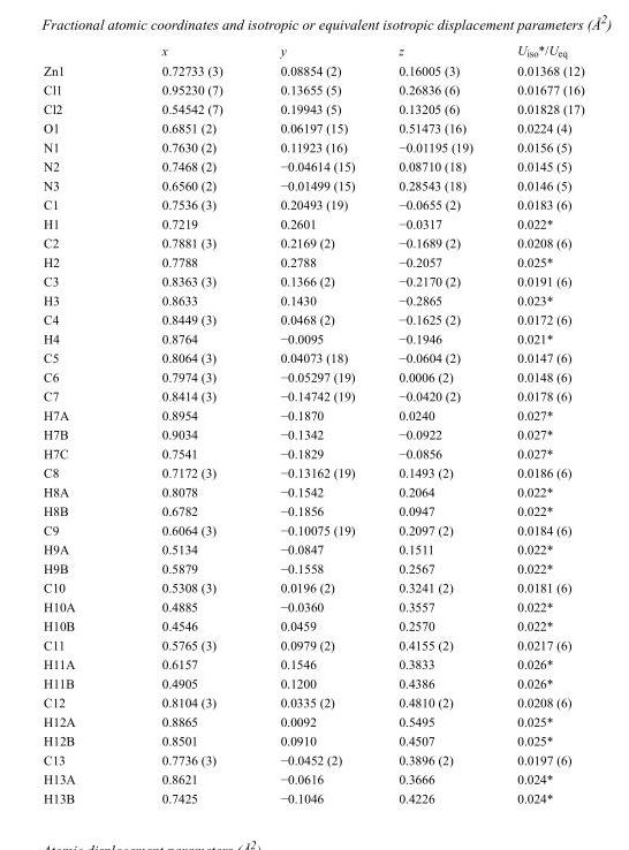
<table><thead><tr><td></td><td>x</td><td>y</td><td>z</td><td>U<sub>iso</sub>*/U<sub>eq</sub></td></tr></thead><tbody><tr><td>Zn1</td><td>0.72733 (3)</td><td>0.08854 (2)</td><td>0.16005 (3)</td><td>0.01368 (12)</td></tr><tr><td>Cl1</td><td>0.95230 (7)</td><td>0.13655 (5)</td><td>0.26836 (6)</td><td>0.01677 (16)</td></tr><tr><td>Cl2</td><td>0.54542 (7)</td><td>0.19943 (5)</td><td>0.13205 (6)</td><td>0.01828 (17)</td></tr><tr><td>O1</td><td>0.6851 (2)</td><td>0.06197 (15)</td><td>0.51473 (16)</td><td>0.0224 (4)</td></tr><tr><td>N1</td><td>0.7630 (2)</td><td>0.11923 (16)</td><td>−0.01195 (19)</td><td>0.0156 (5)</td></tr><tr><td>N2</td><td>0.7468 (2)</td><td>−0.04614 (15)</td><td>0.08710 (18)</td><td>0.0145 (5)</td></tr><tr><td>N3</td><td>0.6560 (2)</td><td>−0.01499 (15)</td><td>0.28543 (18)</td><td>0.0146 (5)</td></tr><tr><td>C1</td><td>0.7536 (3)</td><td>0.20493 (19)</td><td>−0.0655 (2)</td><td>0.0183 (6)</td></tr><tr><td>H1</td><td>0.7219</td><td>0.2601</td><td>−0.0317</td><td>0.022*</td></tr><tr><td>C2</td><td>0.7881 (3)</td><td>0.2169 (2)</td><td>−0.1689 (2)</td><td>0.0208 (6)</td></tr><tr><td>H2</td><td>0.7788</td><td>0.2788</td><td>−0.2057</td><td>0.025*</td></tr><tr><td>C3</td><td>0.8363 (3)</td><td>0.1366 (2)</td><td>−0.2170 (2)</td><td>0.0191 (6)</td></tr><tr><td>H3</td><td>0.8633</td><td>0.1430</td><td>−0.2865</td><td>0.023*</td></tr><tr><td>C4</td><td>0.8449 (3)</td><td>0.0468 (2)</td><td>−0.1625 (2)</td><td>0.0172 (6)</td></tr><tr><td>H4</td><td>0.8764</td><td>−0.0095</td><td>−0.1946</td><td>0.021*</td></tr><tr><td>C5</td><td>0.8064 (3)</td><td>0.04073 (18)</td><td>−0.0604 (2)</td><td>0.0147 (6)</td></tr><tr><td>C6</td><td>0.7974 (3)</td><td>−0.05297 (19)</td><td>0.0006 (2)</td><td>0.0148 (6)</td></tr><tr><td>C7</td><td>0.8414 (3)</td><td>−0.14742 (19)</td><td>−0.0420 (2)</td><td>0.0178 (6)</td></tr><tr><td>H7A</td><td>0.8954</td><td>−0.1870</td><td>0.0240</td><td>0.027*</td></tr><tr><td>H7B</td><td>0.9034</td><td>−0.1342</td><td>−0.0922</td><td>0.027*</td></tr><tr><td>H7C</td><td>0.7541</td><td>−0.1829</td><td>−0.0856</td><td>0.027*</td></tr><tr><td>C8</td><td>0.7172 (3)</td><td>−0.13162 (19)</td><td>0.1493 (2)</td><td>0.0186 (6)</td></tr><tr><td>H8A</td><td>0.8078</td><td>−0.1542</td><td>0.2064</td><td>0.022*</td></tr><tr><td>H8B</td><td>0.6782</td><td>−0.1856</td><td>0.0947</td><td>0.022*</td></tr><tr><td>C9</td><td>0.6064 (3)</td><td>−0.10075 (19)</td><td>0.2097 (2)</td><td>0.0184 (6)</td></tr><tr><td>H9A</td><td>0.5134</td><td>−0.0847</td><td>0.1511</td><td>0.022*</td></tr><tr><td>H9B</td><td>0.5879</td><td>−0.1558</td><td>0.2567</td><td>0.022*</td></tr><tr><td>C10</td><td>0.5308 (3)</td><td>0.0196 (2)</td><td>0.3241 (2)</td><td>0.0181 (6)</td></tr><tr><td>H10A</td><td>0.4885</td><td>−0.0360</td><td>0.3557</td><td>0.022*</td></tr><tr><td>H10B</td><td>0.4546</td><td>0.0459</td><td>0.2570</td><td>0.022*</td></tr><tr><td>C11</td><td>0.5765 (3)</td><td>0.0979 (2)</td><td>0.4155 (2)</td><td>0.0217 (6)</td></tr><tr><td>H11A</td><td>0.6157</td><td>0.1546</td><td>0.3833</td><td>0.026*</td></tr><tr><td>H11B</td><td>0.4905</td><td>0.1200</td><td>0.4386</td><td>0.026*</td></tr><tr><td>C12</td><td>0.8104 (3)</td><td>0.0335 (2)</td><td>0.4810 (2)</td><td>0.0208 (6)</td></tr><tr><td>H12A</td><td>0.8865</td><td>0.0092</td><td>0.5495</td><td>0.025*</td></tr><tr><td>H12B</td><td>0.8501</td><td>0.0910</td><td>0.4507</td><td>0.025*</td></tr><tr><td>C13</td><td>0.7736 (3)</td><td>−0.0452 (2)</td><td>0.3896 (2)</td><td>0.0197 (6)</td></tr><tr><td>H13A</td><td>0.8621</td><td>−0.0616</td><td>0.3666</td><td>0.024*</td></tr><tr><td>H13B</td><td>0.7425</td><td>−0.1046</td><td>0.4226</td><td>0.024*</td></tr></tbody></table>